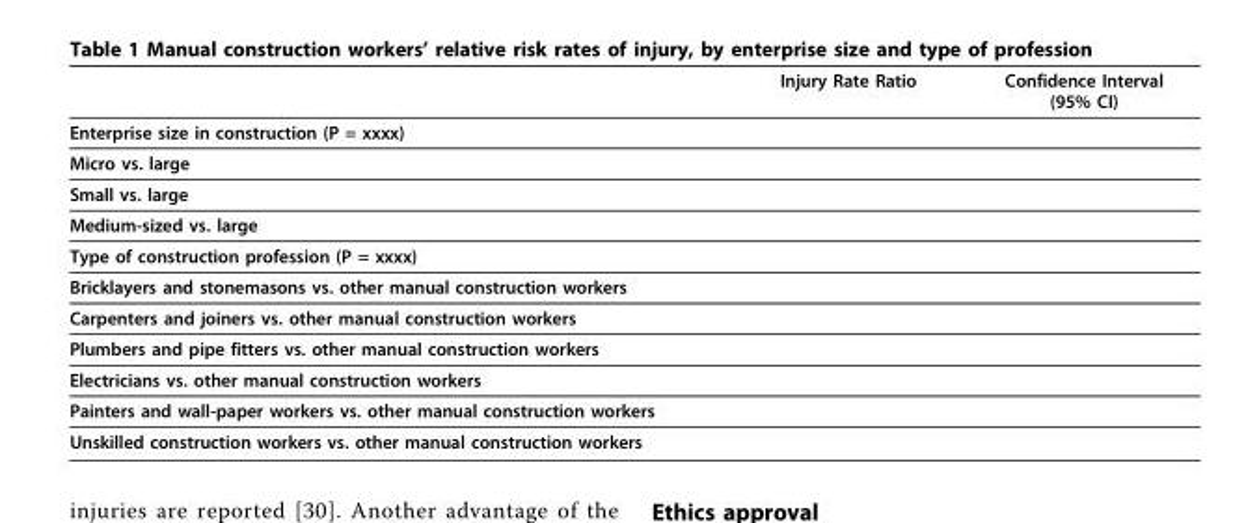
<table><thead><tr><td></td><td>Injury Rate Ratio</td><td>Confidence Interval (95% CI)</td></tr></thead><tbody><tr><td colspan="3">Enterprise size in construction (P = xxxx)</td></tr><tr><td colspan="3">Micro vs. large</td></tr><tr><td colspan="3">Small vs. large</td></tr><tr><td colspan="3">Medium-sized vs. large</td></tr><tr><td colspan="3">Type of construction profession (P = xxxx)</td></tr><tr><td colspan="3">Bricklayers and stonemasons vs. other manual construction workers</td></tr><tr><td colspan="3">Carpenters and joiners vs. other manual construction workers</td></tr><tr><td colspan="3">Plumbers and pipe fitters vs. other manual construction workers</td></tr><tr><td colspan="3">Electricians vs. other manual construction workers</td></tr><tr><td colspan="3">Painters and wall-paper workers vs. other manual construction workers</td></tr><tr><td>Unskilled construction workers vs. other manual construction workers</td><td></td><td></td></tr></tbody></table>